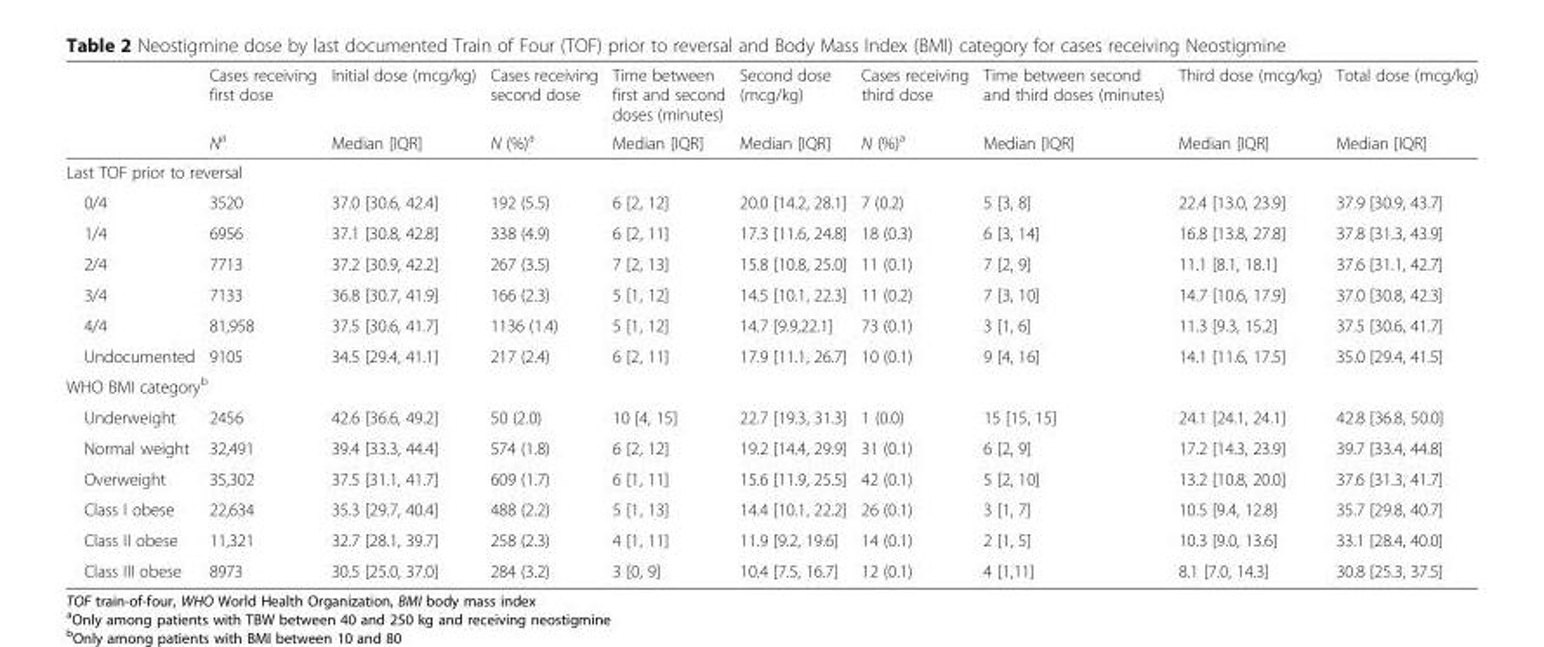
<table><thead><tr><td rowspan="2"></td><td rowspan="2">Cases receiving first dose N<sup>a</sup></td><td rowspan="2">Initial dose (mcg/kg) Median [IQR]</td><td rowspan="2">Cases receiving second dose N (%)<sup>a</sup></td><td rowspan="2">Time between first and second doses (minutes) Median [IQR]</td><td rowspan="2">Second dose (mcg/kg) Median [IQR]</td><td rowspan="2">Cases receiving third dose N (%)<sup>a</sup></td><td rowspan="2">Time between second and third doses (minutes) Median [IQR]</td><td rowspan="2">Third dose (mcg/kg) Median [IQR]</td><td rowspan="2">Total dose (mcg/kg) Median [IQR]</td></tr><tr></tr></thead><tbody><tr><td colspan="10">Last TOF prior to reversal</td></tr><tr><td>0/4</td><td>3520</td><td>37.0 [30.6, 42.4]</td><td>192 (5.5)</td><td>6 [2, 12]</td><td>20.0 [14.2, 28.1]</td><td>7 (0.2)</td><td>5 [3, 8]</td><td>22.4 [13.0, 23.9]</td><td>37.9 [30.9, 43.7]</td></tr><tr><td>1/4</td><td>6956</td><td>37.1 [30.8, 42.8]</td><td>338 (4.9)</td><td>6 [2, 11]</td><td>17.3 [11.6, 24.8]</td><td>18 (0.3)</td><td>6 [3, 14]</td><td>16.8 [13.8, 27.8]</td><td>37.8 [31.3, 43.9]</td></tr><tr><td>2/4</td><td>7713</td><td>37.2 [30.9, 42.2]</td><td>267 (3.5)</td><td>7 [2, 13]</td><td>15.8 [10.8, 25.0]</td><td>11 (0.1)</td><td>7 [2, 9]</td><td>11.1 [8.1, 18.1]</td><td>37.6 [31.1, 42.7]</td></tr><tr><td>3/4</td><td>7133</td><td>36.8 [30.7, 41.9]</td><td>166 (2.3)</td><td>5 [1, 12]</td><td>14.5 [10.1, 22.3]</td><td>11 (0.2)</td><td>7 [3, 10]</td><td>14.7 [10.6, 17.9]</td><td>37.0 [30.8, 42.3]</td></tr><tr><td>4/4</td><td>81,958</td><td>37.5 [30.6, 41.7]</td><td>1136 (1.4)</td><td>5 [1, 12]</td><td>14.7 [9.9,22.1]</td><td>73 (0.1)</td><td>3 [1, 6]</td><td>11.3 [9.3, 15.2]</td><td>37.5 [30.6, 41.7]</td></tr><tr><td>Undocumented</td><td>9105</td><td>34.5 [29.4, 41.1]</td><td>217 (2.4)</td><td>6 [2, 11]</td><td>17.9 [11.1, 26.7]</td><td>10 (0.1)</td><td>9 [4, 16]</td><td>14.1 [11.6, 17.5]</td><td>35.0 [29.4, 41.5]</td></tr><tr><td colspan="10">WHO BMI category<sup>b</sup></td></tr><tr><td>Underweight</td><td>2456</td><td>42.6 [36.6, 49.2]</td><td>50 (2.0)</td><td>10 [4, 15]</td><td>22.7 [19.3, 31.3]</td><td>1 (0.0)</td><td>15 [15, 15]</td><td>24.1 [24.1, 24.1]</td><td>42.8 [36.8, 50.0]</td></tr><tr><td>Normal weight</td><td>32,491</td><td>39.4 [33.3, 44.4]</td><td>574 (1.8)</td><td>6 [2, 12]</td><td>19.2 [14.4, 29.9]</td><td>31 (0.1)</td><td>6 [2, 9]</td><td>17.2 [14.3, 23.9]</td><td>39.7 [33.4, 44.8]</td></tr><tr><td>Overweight</td><td>35,302</td><td>37.5 [31.1, 41.7]</td><td>609 (1.7)</td><td>6 [1, 11]</td><td>15.6 [11.9, 25.5]</td><td>42 (0.1)</td><td>5 [2, 10]</td><td>13.2 [10.8, 20.0]</td><td>37.6 [31.3, 41.7]</td></tr><tr><td>Class I obese</td><td>22,634</td><td>35.3 [29.7, 40.4]</td><td>488 (2.2)</td><td>5 [1, 13]</td><td>14.4 [10.1, 22.2]</td><td>26 (0.1)</td><td>3 [1, 7]</td><td>10.5 [9.4, 12.8]</td><td>35.7 [29.8, 40.7]</td></tr><tr><td>Class II obese</td><td>11,321</td><td>32.7 [28.1, 39.7]</td><td>258 (2.3)</td><td>4 [1, 11]</td><td>11.9 [9.2, 19.6]</td><td>14 (0.1)</td><td>2 [1, 5]</td><td>10.3 [9.0, 13.6]</td><td>33.1 [28.4, 40.0]</td></tr><tr><td>Class III obese</td><td>8973</td><td>30.5 [25.0, 37.0]</td><td>284 (3.2)</td><td>3 [0, 9]</td><td>10.4 [7.5, 16.7]</td><td>12 (0.1)</td><td>4 [1,11]</td><td>8.1 [7.0, 14.3]</td><td>30.8 [25.3, 37.5]</td></tr></tbody></table>